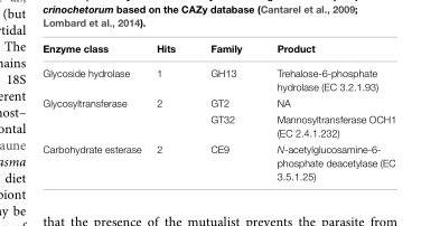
<table><thead><tr><td>Enzyme class</td><td>Hits</td><td>Family</td><td>Product</td></tr></thead><tbody><tr><td>Glycoside hydrolase</td><td>1</td><td>GH13</td><td>Trehalose-6-phosphate hydrolase (EC 3.2.1.93)</td></tr><tr><td rowspan="2">Glycosyltransferase</td><td>2</td><td>GT2</td><td>NA</td></tr><tr><td></td><td>GT32</td><td>Mannosyltransferase OCH1 (EC 2.4.1.232)</td></tr><tr><td>Carbohydrate esterase</td><td>2</td><td>CE9</td><td>N-acetylglucosamine-6- phosphate deacetylase (EC 3.5.1.25)</td></tr></tbody></table>